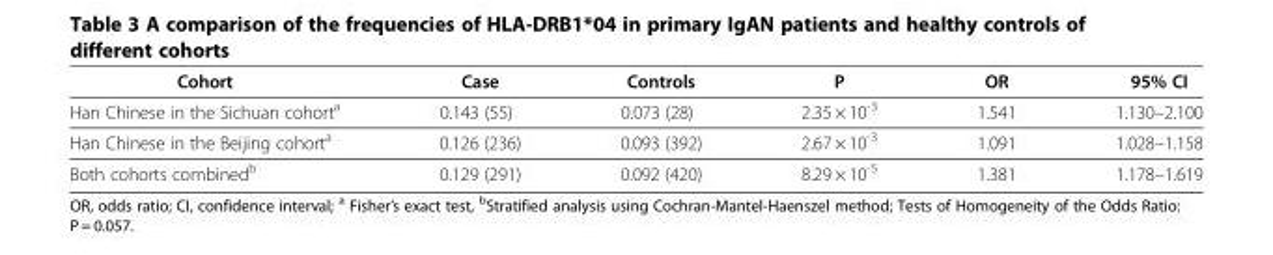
<table><thead><tr><td>Cohort</td><td>Case</td><td>Controls</td><td>P</td><td>OR</td><td>95% CI</td></tr></thead><tbody><tr><td>Han Chinese in the Sichuan cohort<sup>a</sup></td><td>0.143 (55)</td><td>0.073 (28)</td><td>2.35 × 10<sup>-3</sup></td><td>1.541</td><td>1.130–2.100</td></tr><tr><td>Han Chinese in the Beijing cohort<sup>a</sup></td><td>0.126 (236)</td><td>0.093 (392)</td><td>2.67 × 10<sup>-3</sup></td><td>1.091</td><td>1.028–1.158</td></tr><tr><td>Both cohorts combined<sup>b</sup></td><td>0.129 (291)</td><td>0.092 (420)</td><td>8.29 × 10<sup>-5</sup></td><td>1.381</td><td>1.178–1.619</td></tr></tbody></table>